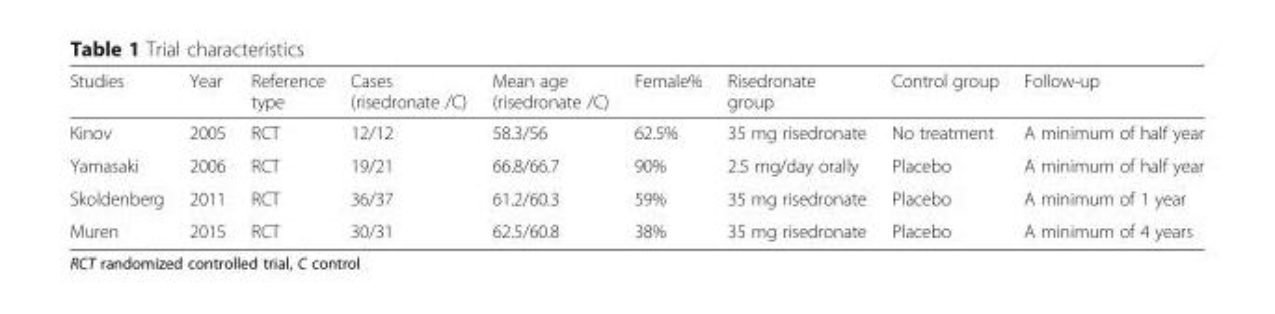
<table><thead><tr><td>Studies</td><td>Year</td><td>Reference type</td><td>Cases (risedronate /C)</td><td>Mean age (risedronate /C)</td><td>Female%</td><td>Risedronate group</td><td>Control group</td><td>Follow-up</td></tr></thead><tbody><tr><td>Kinov</td><td>2005</td><td>RCT</td><td>12/12</td><td>58.3/56</td><td>62.5%</td><td>35 mg risedronate</td><td>No treatment</td><td>A minimum of half year</td></tr><tr><td>Yamasaki</td><td>2006</td><td>RCT</td><td>19/21</td><td>66.8/66.7</td><td>90%</td><td>2.5 mg/day orally</td><td>Placebo</td><td>A minimum of half year</td></tr><tr><td>Skoldenberg</td><td>2011</td><td>RCT</td><td>36/37</td><td>61.2/60.3</td><td>59%</td><td>35 mg risedronate</td><td>Placebo</td><td>A minimum of 1 year</td></tr><tr><td>Muren</td><td>2015</td><td>RCT</td><td>30/31</td><td>62.5/60.8</td><td>38%</td><td>35 mg risedronate</td><td>Placebo</td><td>A minimum of 4 years</td></tr></tbody></table>